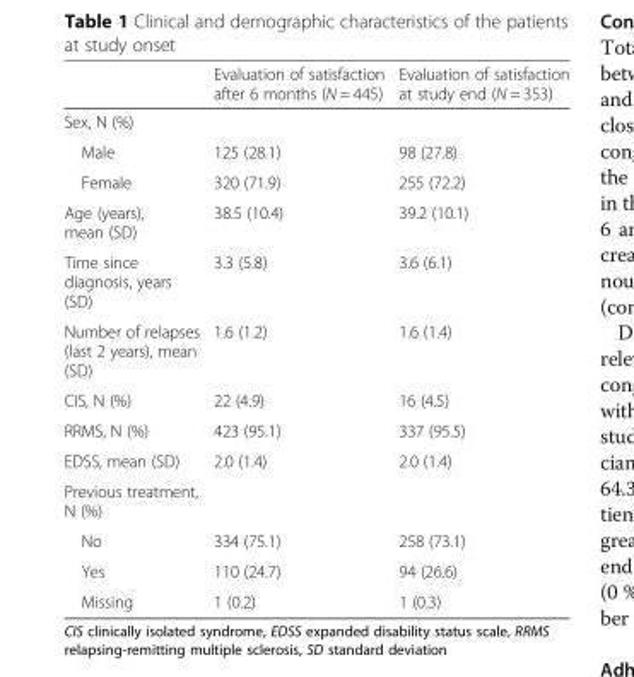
<table><thead><tr><td></td><td>Evaluation of satisfaction after 6 months (N = 445)</td><td>Evaluation of satisfaction at study end (N = 353)</td></tr></thead><tbody><tr><td colspan="3">Sex, N (%)</td></tr><tr><td>Male</td><td>125 (28.1)</td><td>98 (27.8)</td></tr><tr><td>Female</td><td>320 (71.9)</td><td>255 (72.2)</td></tr><tr><td>Age (years), mean (SD)</td><td>38.5 (10.4)</td><td>39.2 (10.1)</td></tr><tr><td>Time since diagnosis, years (SD)</td><td>3.3 (5.8)</td><td>3.6 (6.1)</td></tr><tr><td>Number of relapses (last 2 years), mean (SD)</td><td>1.6 (1.2)</td><td>1.6 (1.4)</td></tr><tr><td>CIS, N (%)</td><td>22 (4.9)</td><td>16 (4.5)</td></tr><tr><td>RRMS, N (%)</td><td>423 (95.1)</td><td>337 (95.5)</td></tr><tr><td>EDSS, mean (SD)</td><td>2.0 (1.4)</td><td>2.0 (1.4)</td></tr><tr><td colspan="3">Previous treatment, N (%)</td></tr><tr><td>No</td><td>334 (75.1)</td><td>258 (73.1)</td></tr><tr><td>Yes</td><td>110 (24.7)</td><td>94 (26.6)</td></tr><tr><td>Missing</td><td>1 (0.2)</td><td>1 (0.3)</td></tr></tbody></table>